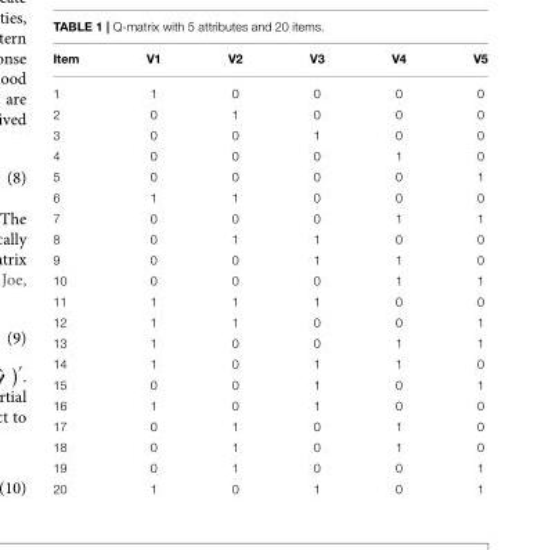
<table><thead><tr><td>Item</td><td>V1</td><td>V2</td><td>V3</td><td>V4</td><td>V5</td></tr></thead><tbody><tr><td>1</td><td>1</td><td>0</td><td>0</td><td>0</td><td>0</td></tr><tr><td>2</td><td>0</td><td>1</td><td>0</td><td>0</td><td>0</td></tr><tr><td>3</td><td>0</td><td>0</td><td>1</td><td>0</td><td>0</td></tr><tr><td>4</td><td>0</td><td>0</td><td>0</td><td>1</td><td>0</td></tr><tr><td>5</td><td>0</td><td>0</td><td>0</td><td>0</td><td>1</td></tr><tr><td>6</td><td>1</td><td>1</td><td>0</td><td>0</td><td>0</td></tr><tr><td>7</td><td>0</td><td>0</td><td>0</td><td>1</td><td>1</td></tr><tr><td>8</td><td>0</td><td>1</td><td>1</td><td>0</td><td>0</td></tr><tr><td>9</td><td>0</td><td>0</td><td>1</td><td>1</td><td>0</td></tr><tr><td>10</td><td>0</td><td>0</td><td>0</td><td>1</td><td>1</td></tr><tr><td>11</td><td>1</td><td>1</td><td>1</td><td>0</td><td>0</td></tr><tr><td>12</td><td>1</td><td>1</td><td>0</td><td>0</td><td>1</td></tr><tr><td>13</td><td>1</td><td>0</td><td>0</td><td>1</td><td>1</td></tr><tr><td>14</td><td>1</td><td>0</td><td>1</td><td>1</td><td>0</td></tr><tr><td>15</td><td>0</td><td>0</td><td>1</td><td>0</td><td>1</td></tr><tr><td>16</td><td>1</td><td>0</td><td>1</td><td>0</td><td>0</td></tr><tr><td>17</td><td>0</td><td>1</td><td>0</td><td>1</td><td>0</td></tr><tr><td>18</td><td>0</td><td>1</td><td>0</td><td>1</td><td>0</td></tr><tr><td>19</td><td>0</td><td>1</td><td>0</td><td>0</td><td>1</td></tr><tr><td>20</td><td>1</td><td>0</td><td>1</td><td>0</td><td>1</td></tr></tbody></table>